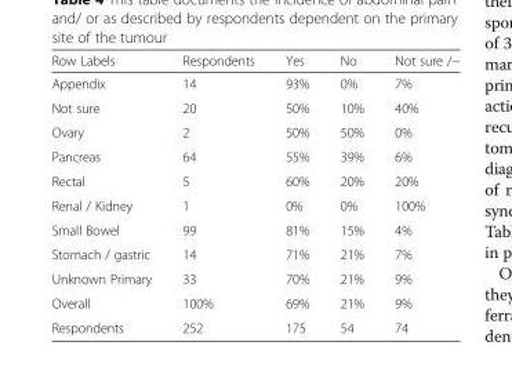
<table><thead><tr><td>Row Labels</td><td>Respondents</td><td>Yes</td><td>No</td><td>Not sure /−</td></tr></thead><tbody><tr><td>Appendix</td><td>14</td><td>93%</td><td>0%</td><td>7%</td></tr><tr><td>Not sure</td><td>20</td><td>50%</td><td>10%</td><td>40%</td></tr><tr><td>Ovary</td><td>2</td><td>50%</td><td>50%</td><td>0%</td></tr><tr><td>Pancreas</td><td>64</td><td>55%</td><td>39%</td><td>6%</td></tr><tr><td>Rectal</td><td>5</td><td>60%</td><td>20%</td><td>20%</td></tr><tr><td>Renal / Kidney</td><td>1</td><td>0%</td><td>0%</td><td>100%</td></tr><tr><td>Small Bowel</td><td>99</td><td>81%</td><td>15%</td><td>4%</td></tr><tr><td>Stomach / gastric</td><td>14</td><td>71%</td><td>21%</td><td>7%</td></tr><tr><td>Unknown Primary</td><td>33</td><td>70%</td><td>21%</td><td>9%</td></tr><tr><td>Overall</td><td>100%</td><td>69%</td><td>21%</td><td>9%</td></tr><tr><td>Respondents</td><td>252</td><td>175</td><td>54</td><td>74</td></tr></tbody></table>